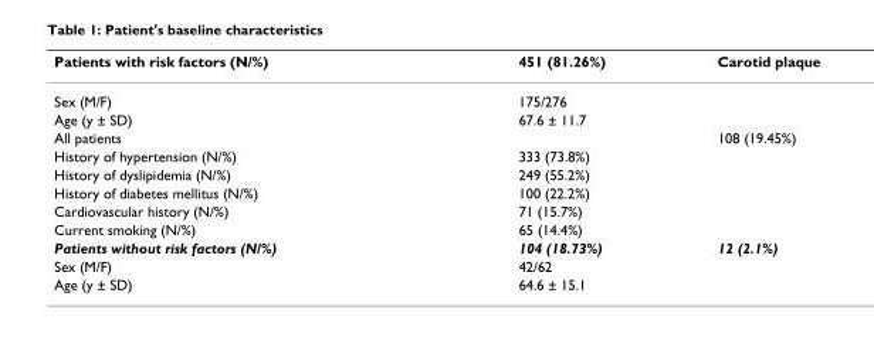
<table><thead><tr><td>Patients with risk factors (N/%)</td><td>451 (81.26%)</td><td>Carotid plaque</td></tr></thead><tbody><tr><td>Sex (M/F)</td><td>175/276</td><td></td></tr><tr><td>Age (y ± SD)</td><td>67.6 ± 11.7</td><td></td></tr><tr><td>All patients</td><td></td><td>108 (19.45%)</td></tr><tr><td>History of hypertension (N/%)</td><td>333 (73.8%)</td><td></td></tr><tr><td>History of dyslipidemia (N/%)</td><td>249 (55.2%)</td><td></td></tr><tr><td>History of diabetes mellitus (N/%)</td><td>100 (22.2%)</td><td></td></tr><tr><td>Cardiovascular history (N/%)</td><td>71 (15.7%)</td><td></td></tr><tr><td>Current smoking (N/%)</td><td>65 (14.4%)</td><td></td></tr><tr><td>Patients without risk factors (N/%)</td><td>104 (18.73%)</td><td>12 (2.1%)</td></tr><tr><td>Sex (M/F)</td><td>42/62</td><td></td></tr><tr><td>Age (y ± SD)</td><td>64.6 ± 15.1</td><td></td></tr></tbody></table>